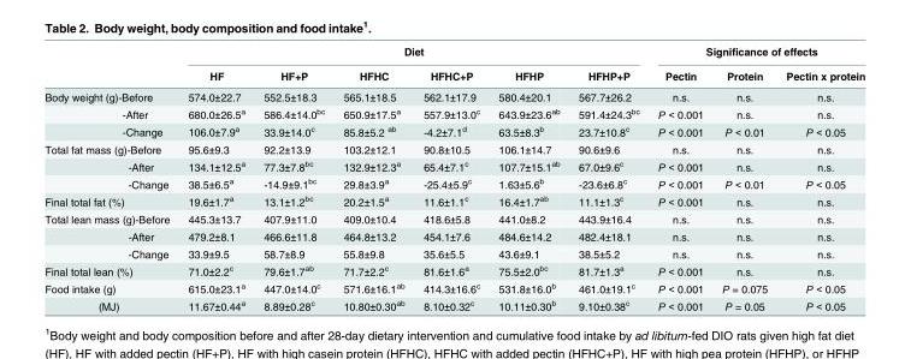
<table><thead><tr><td rowspan="2"></td><td colspan="6">Diet</td><td colspan="3">Significance of effects</td></tr><tr><td>HF</td><td>HF+P</td><td>HFHC</td><td>HFHC+P</td><td>HFHP</td><td>HFHP+P</td><td>Pectin</td><td>Protein</td><td>Pectin x protein</td></tr></thead><tbody><tr><td>Body weight (g)-Before</td><td>574.0±22.7</td><td>552.5±18.3</td><td>565.1±18.5</td><td>562.1±17.9</td><td>580.4±20.1</td><td>567.7±26.2</td><td>n.s.</td><td>n.s.</td><td>n.s.</td></tr><tr><td>-After</td><td>680.0±26.5<sup>a</sup></td><td>586.4±14.0<sup>bc</sup></td><td>650.9±17.5<sup>a</sup></td><td>557.9±13.0<sup>c</sup></td><td>643.9±23.6<sup>ab</sup></td><td>591.4±24.3<sup>bc</sup></td><td>P &lt; 0.001</td><td>n.s.</td><td>n.s.</td></tr><tr><td>-Change</td><td>106.0±7.9<sup>a</sup></td><td>33.9±14.0<sup>c</sup></td><td>85.8±5.2 <sup>ab</sup></td><td>-4.2±7.1<sup>d</sup></td><td>63.5±8.3<sup>b</sup></td><td>23.7±10.8<sup>c</sup></td><td>P &lt; 0.001</td><td>P &lt; 0.01</td><td>P &lt; 0.05</td></tr><tr><td>Total fat mass (g)-Before</td><td>95.6±9.3</td><td>92.2±13.9</td><td>103.2±12.1</td><td>90.8±10.5</td><td>106.1±14.7</td><td>90.6±9.6</td><td>n.s.</td><td>n.s.</td><td>n.s.</td></tr><tr><td>-After</td><td>134.1±12.5<sup>a</sup></td><td>77.3±7.8<sup>bc</sup></td><td>132.9±12.3<sup>a</sup></td><td>65.4±7.1<sup>c</sup></td><td>107.7±15.1<sup>ab</sup></td><td>67.0±9.6<sup>c</sup></td><td>P &lt; 0.001</td><td>n.s.</td><td>n.s.</td></tr><tr><td>-Change</td><td>38.5±6.5<sup>a</sup></td><td>-14.9±9.1<sup>bc</sup></td><td>29.8±3.9<sup>a</sup></td><td>-25.4±5.9<sup>c</sup></td><td>1.63±5.6<sup>b</sup></td><td>-23.6±6.8<sup>c</sup></td><td>P &lt; 0.001</td><td>P &lt; 0.01</td><td>P &lt; 0.05</td></tr><tr><td>Final total fat (%)</td><td>19.6±1.7<sup>a</sup></td><td>13.1±1.2<sup>bc</sup></td><td>20.2±1.5<sup>a</sup></td><td>11.6±1.1<sup>c</sup></td><td>16.4±1.7<sup>ab</sup></td><td>11.1±1.3<sup>c</sup></td><td>P &lt; 0.001</td><td>n.s.</td><td>n.s.</td></tr><tr><td>Total lean mass (g)-Before</td><td>445.3±13.7</td><td>407.9±11.0</td><td>409.0±10.4</td><td>418.6±5.8</td><td>441.0±8.2</td><td>443.9±16.4</td><td>n.s.</td><td>n.s.</td><td>n.s.</td></tr><tr><td>-After</td><td>479.2±8.1</td><td>466.6±11.8</td><td>464.8±13.2</td><td>454.1±7.6</td><td>484.6±14.2</td><td>482.4±18.1</td><td>n.s.</td><td>n.s.</td><td>n.s.</td></tr><tr><td>-Change</td><td>33.9±9.5</td><td>58.7±8.9</td><td>55.8±9.8</td><td>35.6±5.5</td><td>43.6±9.1</td><td>38.5±5.2</td><td>n.s.</td><td>n.s.</td><td>n.s.</td></tr><tr><td>Final total lean (%)</td><td>71.0±2.2<sup>c</sup></td><td>79.6±1.7<sup>ab</sup></td><td>71.7±2.2<sup>c</sup></td><td>81.6±1.6<sup>a</sup></td><td>75.5±2.0<sup>bc</sup></td><td>81.7±1.3<sup>a</sup></td><td>P &lt; 0.001</td><td>n.s.</td><td>n.s.</td></tr><tr><td>Food intake (g)</td><td>615.0±23.1<sup>a</sup></td><td>447.0±14.0<sup>c</sup></td><td>571.6±16.1<sup>ab</sup></td><td>414.3±16.6<sup>c</sup></td><td>531.8±16.0<sup>b</sup></td><td>461.0±19.1<sup>c</sup></td><td>P &lt; 0.001</td><td>P = 0.075</td><td>P &lt; 0.05</td></tr><tr><td>(MJ)</td><td>11.67±0.44<sup>a</sup></td><td>8.89±0.28<sup>c</sup></td><td>10.80±0.30<sup>ab</sup></td><td>8.10±0.32<sup>c</sup></td><td>10.11±0.30<sup>b</sup></td><td>9.10±0.38<sup>c</sup></td><td>P &lt; 0.001</td><td>P = 0.05</td><td>P &lt; 0.05</td></tr></tbody></table>